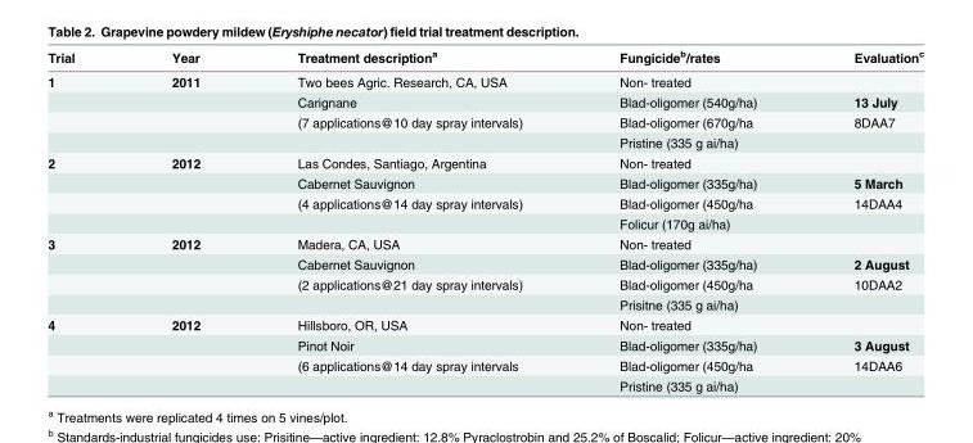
<table><thead><tr><td>Trial</td><td>Year</td><td>Treatment description<sup>a</sup></td><td>Fungicide<sup>b</sup>/rates</td><td>Evaluation<sup>c</sup></td></tr></thead><tbody><tr><td rowspan="4">1</td><td>2011</td><td>Two bees Agric. Research, CA, USA</td><td>Non- treated</td><td></td></tr><tr><td></td><td>Carignane</td><td>Blad-oligomer (540g/ha)</td><td>13 July</td></tr><tr><td></td><td>(7 applications@10 day spray intervals)</td><td>Blad-oligomer (670g/ha</td><td>8DAA7</td></tr><tr><td></td><td></td><td>Pristine (335 g ai/ha)</td><td></td></tr><tr><td rowspan="4">2</td><td>2012</td><td>Las Condes, Santiago, Argentina</td><td>Non- treated</td><td></td></tr><tr><td></td><td>Cabernet Sauvignon</td><td>Blad-oligomer (335g/ha)</td><td>5 March</td></tr><tr><td></td><td>(4 applications@14 day spray intervals)</td><td>Blad-oligomer (450g/ha</td><td>14DAA4</td></tr><tr><td></td><td></td><td>Folicur (170g ai/ha)</td><td></td></tr><tr><td rowspan="4">3</td><td>2012</td><td>Madera, CA, USA</td><td>Non- treated</td><td></td></tr><tr><td></td><td>Cabernet Sauvignon</td><td>Blad-oligomer (335g/ha)</td><td>2 August</td></tr><tr><td></td><td>(2 applications@21 day spray intervals)</td><td>Blad-oligomer (450g/ha</td><td>10DAA2</td></tr><tr><td></td><td></td><td>Prisitne (335 g ai/ha)</td><td></td></tr><tr><td rowspan="4">4</td><td>2012</td><td>Hillsboro, OR, USA</td><td>Non- treated</td><td></td></tr><tr><td></td><td>Pinot Noir</td><td>Blad-oligomer (335g/ha)</td><td>3 August</td></tr><tr><td></td><td>(6 applications@14 day spray intervals</td><td>Blad-oligomer (450g/ha</td><td>14DAA6</td></tr><tr><td></td><td></td><td>Pristine (335 g ai/ha)</td><td></td></tr></tbody></table>